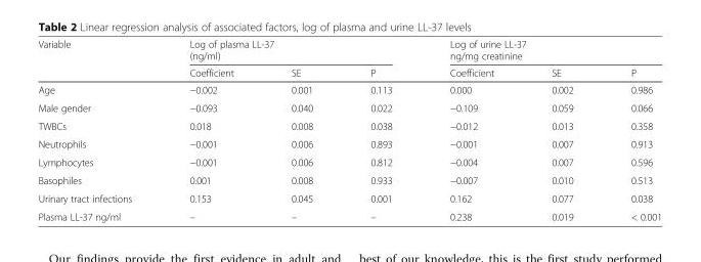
<table><thead><tr><td rowspan="2">Variable</td><td colspan="3">Log of plasma LL-37 (ng/ml)</td><td colspan="3">Log of urine LL-37 ng/mg creatinine</td></tr><tr><td>Coefficient</td><td>SE</td><td>P</td><td>Coefficient</td><td>SE</td><td>P</td></tr></thead><tbody><tr><td>Age</td><td>−0.002</td><td>0.001</td><td>0.113</td><td>0.000</td><td>0.002</td><td>0.986</td></tr><tr><td>Male gender</td><td>−0.093</td><td>0.040</td><td>0.022</td><td>−0.109</td><td>0.059</td><td>0.066</td></tr><tr><td>TWBCs</td><td>0.018</td><td>0.008</td><td>0.038</td><td>−0.012</td><td>0.013</td><td>0.358</td></tr><tr><td>Neutrophils</td><td>−0.001</td><td>0.006</td><td>0.893</td><td>−0.001</td><td>0.007</td><td>0.913</td></tr><tr><td>Lymphocytes</td><td>−0.001</td><td>0.006</td><td>0.812</td><td>−0.004</td><td>0.007</td><td>0.596</td></tr><tr><td>Basophiles</td><td>0.001</td><td>0.008</td><td>0.933</td><td>−0.007</td><td>0.010</td><td>0.513</td></tr><tr><td>Urinary tract infections</td><td>0.153</td><td>0.045</td><td>0.001</td><td>0.162</td><td>0.077</td><td>0.038</td></tr><tr><td>Plasma LL-37 ng/ml</td><td>–</td><td>–</td><td>–</td><td>0.238</td><td>0.019</td><td>&lt; 0.001</td></tr></tbody></table>